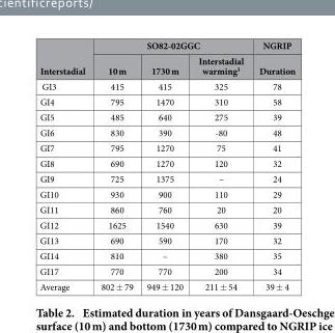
<table><thead><tr><td rowspan="2">Interstadial</td><td colspan="3">SO82-02GGC</td><td rowspan="2">NGRIP Duration</td></tr><tr><td>10 m</td><td>1730 m</td><td>Interstadial warming<sup>1</sup></td></tr></thead><tbody><tr><td>GI3</td><td>415</td><td>415</td><td>325</td><td>78</td></tr><tr><td>GI4</td><td>795</td><td>1470</td><td>310</td><td>58</td></tr><tr><td>GI5</td><td>485</td><td>640</td><td>275</td><td>39</td></tr><tr><td>GI6</td><td>830</td><td>390</td><td>-80</td><td>48</td></tr><tr><td>GI7</td><td>795</td><td>1270</td><td>75</td><td>41</td></tr><tr><td>GI8</td><td>690</td><td>1270</td><td>120</td><td>32</td></tr><tr><td>GI9</td><td>725</td><td>1375</td><td>–</td><td>24</td></tr><tr><td>GI10</td><td>930</td><td>900</td><td>110</td><td>29</td></tr><tr><td>GI11</td><td>860</td><td>760</td><td>20</td><td>20</td></tr><tr><td>GI12</td><td>1625</td><td>1540</td><td>630</td><td>39</td></tr><tr><td>GI13</td><td>690</td><td>590</td><td>170</td><td>32</td></tr><tr><td>GI14</td><td>810</td><td>–</td><td>380</td><td>35</td></tr><tr><td>GI17</td><td>770</td><td>770</td><td>200</td><td>34</td></tr><tr><td>Average</td><td>802 ± 79</td><td>949 ± 120</td><td>211 ± 54</td><td>39 ± 4</td></tr></tbody></table>